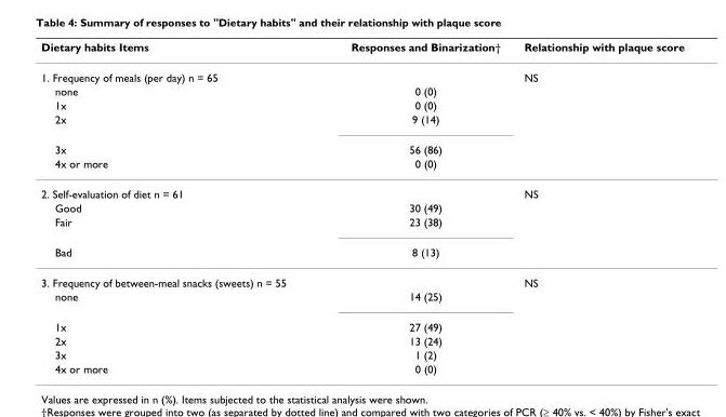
<table><thead><tr><td>Dietary habits Items</td><td>Responses and Binarization†</td><td>Relationship with plaque score</td></tr></thead><tbody><tr><td>1. Frequency of meals (per day) n = 65</td><td></td><td>NS</td></tr><tr><td>none</td><td>0 (0)</td><td></td></tr><tr><td>1x</td><td>0 (0)</td><td></td></tr><tr><td>2x</td><td>9 (14)</td><td></td></tr><tr><td>3x</td><td>56 (86)</td><td></td></tr><tr><td>4x or more</td><td>0 (0)</td><td></td></tr><tr><td>2. Self-evaluation of diet n = 61</td><td></td><td>NS</td></tr><tr><td>Good</td><td>30 (49)</td><td></td></tr><tr><td>Fair</td><td>23 (38)</td><td></td></tr><tr><td>Bad</td><td>8 (13)</td><td></td></tr><tr><td>3. Frequency of between-meal snacks (sweets) n = 55</td><td></td><td>NS</td></tr><tr><td>none</td><td>14 (25)</td><td></td></tr><tr><td>1x</td><td>27 (49)</td><td></td></tr><tr><td>2x</td><td>13 (24)</td><td></td></tr><tr><td>3x</td><td>1 (2)</td><td></td></tr><tr><td>4x or more</td><td>0 (0)</td><td></td></tr></tbody></table>